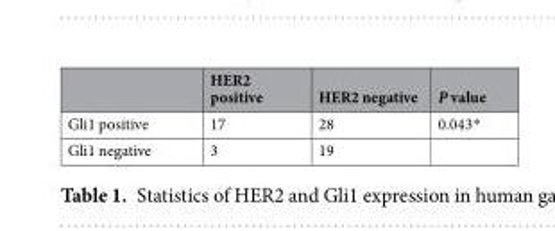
<table><thead><tr><td></td><td>HER2 positive</td><td>HER2 negative</td><td>P value</td></tr></thead><tbody><tr><td>Gli1 positive</td><td>17</td><td>28</td><td>0.043*</td></tr><tr><td>Gli1 negative</td><td>3</td><td>19</td><td></td></tr></tbody></table>